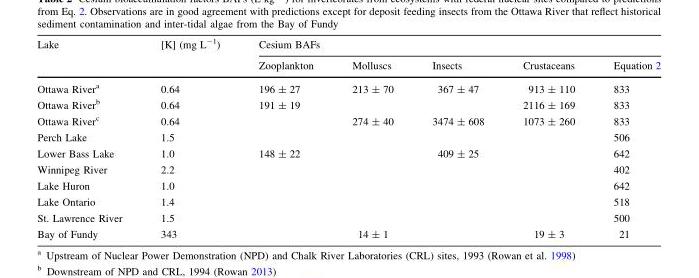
<table><thead><tr><td rowspan="2">Lake</td><td rowspan="2">[K] (mg L<sup>-1</sup>)</td><td colspan="5">Cesium BAFs</td></tr><tr><td>Zooplankton</td><td>Molluscs</td><td>Insects</td><td>Crustaceans</td><td>Equation 2</td></tr></thead><tbody><tr><td>Ottawa River<sup>a</sup></td><td>0.64</td><td>196 ± 27</td><td>213 ± 70</td><td>367 ± 47</td><td>913 ± 110</td><td>833</td></tr><tr><td>Ottawa River<sup>b</sup></td><td>0.64</td><td>191 ± 19</td><td></td><td></td><td>2116 ± 169</td><td>833</td></tr><tr><td>Ottawa River<sup>c</sup></td><td>0.64</td><td></td><td>274 ± 40</td><td>3474 ± 608</td><td>1073 ± 260</td><td>833</td></tr><tr><td>Perch Lake</td><td>1.5</td><td></td><td></td><td></td><td></td><td>506</td></tr><tr><td>Lower Bass Lake</td><td>1.0</td><td>148 ± 22</td><td></td><td>409 ± 25</td><td></td><td>642</td></tr><tr><td>Winnipeg River</td><td>2.2</td><td></td><td></td><td></td><td></td><td>402</td></tr><tr><td>Lake Huron</td><td>1.0</td><td></td><td></td><td></td><td></td><td>642</td></tr><tr><td>Lake Ontario</td><td>1.4</td><td></td><td></td><td></td><td></td><td>518</td></tr><tr><td>St. Lawrence River</td><td>1.5</td><td></td><td></td><td></td><td></td><td>500</td></tr><tr><td>Bay of Fundy</td><td>343</td><td></td><td>14 ± 1</td><td></td><td>19 ± 3</td><td>21</td></tr></tbody></table>